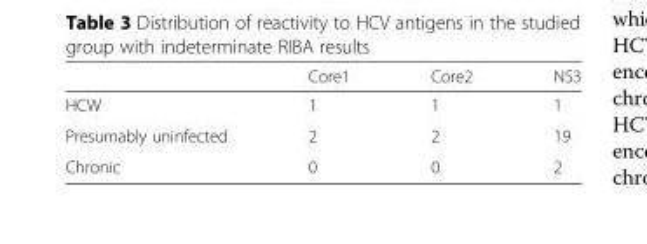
<table><thead><tr><td></td><td>Core1</td><td>Core2</td><td>NS3</td></tr></thead><tbody><tr><td>HCW</td><td>1</td><td>1</td><td>1</td></tr><tr><td>Presumably uninfected</td><td>2</td><td>2</td><td>19</td></tr><tr><td>Chronic</td><td>0</td><td>0</td><td>2</td></tr></tbody></table>